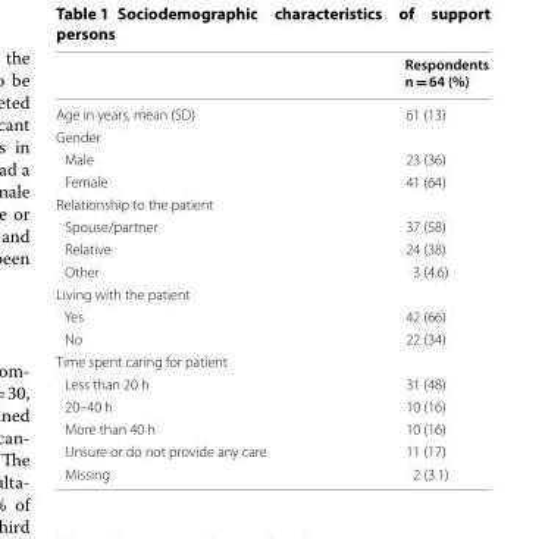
<table><thead><tr><td></td><td>Respondents n = 64 (%)</td></tr></thead><tbody><tr><td>Age in years, mean (SD)</td><td>61 (13)</td></tr><tr><td colspan="2">Gender</td></tr><tr><td>Male</td><td>23 (36)</td></tr><tr><td>Female</td><td>41 (64)</td></tr><tr><td colspan="2">Relationship to the patient</td></tr><tr><td>Spouse/partner</td><td>37 (58)</td></tr><tr><td>Relative</td><td>24 (38)</td></tr><tr><td>Other</td><td>3 (4.6)</td></tr><tr><td colspan="2">Living with the patient</td></tr><tr><td>Yes</td><td>42 (66)</td></tr><tr><td>No</td><td>22 (34)</td></tr><tr><td colspan="2">Time spent caring for patient</td></tr><tr><td>Less than 20 h</td><td>31 (48)</td></tr><tr><td>20–40 h</td><td>10 (16)</td></tr><tr><td>More than 40 h</td><td>10 (16)</td></tr><tr><td>Unsure or do not provide any care</td><td>11 (17)</td></tr><tr><td>Missing</td><td>2 (3.1)</td></tr></tbody></table>